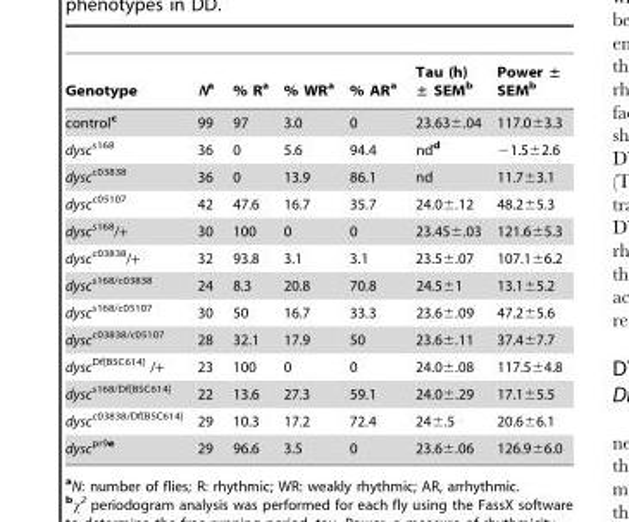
<table><thead><tr><td>Genotype</td><td>Na</td><td>% R<sup>a</sup></td><td>% WR<sup>a</sup></td><td>% AR<sup>a</sup></td><td>Tau (h) ± SEM<sup>b</sup></td><td>Power ± SEM<sup>b</sup></td></tr></thead><tbody><tr><td>control<sup>c</sup></td><td>99</td><td>97</td><td>3.0</td><td>0</td><td>23.63±.04</td><td>117.0±3.3</td></tr><tr><td>dysc<sup>s168</sup></td><td>36</td><td>0</td><td>5.6</td><td>94.4</td><td>nd<sup>d</sup></td><td>−1.5±2.6</td></tr><tr><td>dysc<sup>c03838</sup></td><td>36</td><td>0</td><td>13.9</td><td>86.1</td><td>nd</td><td>11.7±3.1</td></tr><tr><td>dysc<sup>c05107</sup></td><td>42</td><td>47.6</td><td>16.7</td><td>35.7</td><td>24.0±.12</td><td>48.2±5.3</td></tr><tr><td>dysc<sup>s168</sup>/+</td><td>30</td><td>100</td><td>0</td><td>0</td><td>23.45±.03</td><td>121.6±5.3</td></tr><tr><td>dysc<sup>c03838</sup>/+</td><td>32</td><td>93.8</td><td>3.1</td><td>3.1</td><td>23.5±.07</td><td>107.1±6.2</td></tr><tr><td>dysc<sup>s168/c03838</sup></td><td>24</td><td>8.3</td><td>20.8</td><td>70.8</td><td>24.5±1</td><td>13.1±5.2</td></tr><tr><td>dysc<sup>s168/c05107</sup></td><td>30</td><td>50</td><td>16.7</td><td>33.3</td><td>23.6±.09</td><td>47.2±5.6</td></tr><tr><td>dysc<sup>c03838/c05107</sup></td><td>28</td><td>32.1</td><td>17.9</td><td>50</td><td>23.6±.11</td><td>37.4±7.7</td></tr><tr><td>dysc<sup>Df[BSC614]</sup> /+</td><td>23</td><td>100</td><td>0</td><td>0</td><td>24.0±.08</td><td>117.5±4.8</td></tr><tr><td>dysc<sup>s168/Df[BSC614]</sup></td><td>22</td><td>13.6</td><td>27.3</td><td>59.1</td><td>24.0±.29</td><td>17.1±5.5</td></tr><tr><td>dysc<sup>c03838/Df[BSC614]</sup></td><td>29</td><td>10.3</td><td>17.2</td><td>72.4</td><td>24±.5</td><td>20.6±6.1</td></tr><tr><td>dysc<sup>pr9</sup>e</td><td>29</td><td>96.6</td><td>3.5</td><td>0</td><td>23.6±.06</td><td>126.9±6.0</td></tr></tbody></table>